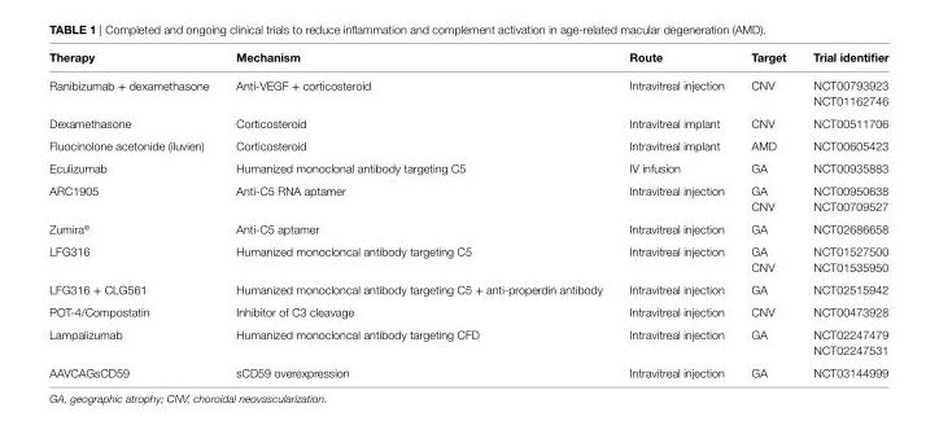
<table><thead><tr><td>Therapy</td><td>Mechanism</td><td>Route</td><td>Target</td><td>Trial identifier</td></tr></thead><tbody><tr><td>Ranibizumab + dexamethasone</td><td>Anti-VEGF + corticosteroid</td><td>Intravitreal injection</td><td>CNV</td><td>NCT00793923 NCT01162746</td></tr><tr><td>Dexamethasone</td><td>Corticosteroid</td><td>Intravitreal implant</td><td>CNV</td><td>NCT00511706</td></tr><tr><td>Fluocinolone acetonide (iluvien)</td><td>Corticosteroid</td><td>Intravitreal implant</td><td>AMD</td><td>NCT00605423</td></tr><tr><td>Eculizumab</td><td>Humanized monoclonal antibody targeting C5</td><td>IV infusion</td><td>GA</td><td>NCT00935883</td></tr><tr><td>ARC1905</td><td>Anti-C5 RNA aptamer</td><td>Intravitreal injection</td><td>GA CNV</td><td>NCT00950638 NCT00709527</td></tr><tr><td>Zumira<sup>®</sup></td><td>Anti-C5 aptamer</td><td>Intravitreal injection</td><td>GA</td><td>NCT02686658</td></tr><tr><td>LFG316</td><td>Humanized monocloncal antibody targeting C5</td><td>Intravitreal injection</td><td>GA CNV</td><td>NCT01527500 NCT01535950</td></tr><tr><td>LFG316 + CLG561</td><td>Humanized monocloncal antibody targeting C5 + anti-properdin antibody</td><td>Intravitreal injection</td><td>GA</td><td>NCT02515942</td></tr><tr><td>POT-4/Compostatin</td><td>Inhibitor of C3 cleavage</td><td>Intravitreal injection</td><td>CNV</td><td>NCT00473928</td></tr><tr><td>Lampalizumab</td><td>Humanized monocloncal antibody targeting CFD</td><td>Intravitreal injection</td><td>GA</td><td>NCT02247479 NCT02247531</td></tr><tr><td>AAVCAGsCD59</td><td>sCD59 overexpression</td><td>Intravitreal injection</td><td>GA</td><td>NCT03144999</td></tr></tbody></table>